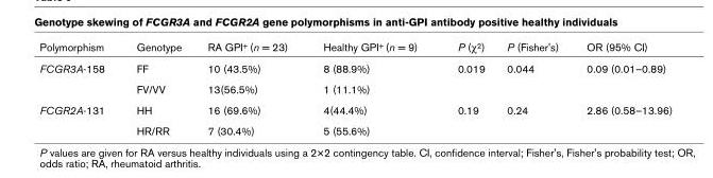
<table><thead><tr><td>Polymorphism</td><td>Genotype</td><td>RA GPI+ (n = 23)</td><td>Healthy GPI+ (n = 9)</td><td>P (χ2)</td><td>P (Fisher&#x27;s)</td><td>OR (95% CI)</td></tr></thead><tbody><tr><td rowspan="2">FCGR3A-158</td><td>FF</td><td>10 (43.5%)</td><td>8 (88.9%)</td><td>0.019</td><td>0.044</td><td>0.09 (0.01–0.89)</td></tr><tr><td>FV/VV</td><td>13(56.5%)</td><td>1 (11.1%)</td><td></td><td></td><td></td></tr><tr><td rowspan="2">FCGR2A-131</td><td>HH</td><td>16 (69.6%)</td><td>4(44.4%)</td><td>0.19</td><td>0.24</td><td>2.86 (0.58–13.96)</td></tr><tr><td>HR/RR</td><td>7 (30.4%)</td><td>5 (55.6%)</td><td></td><td></td><td></td></tr></tbody></table>